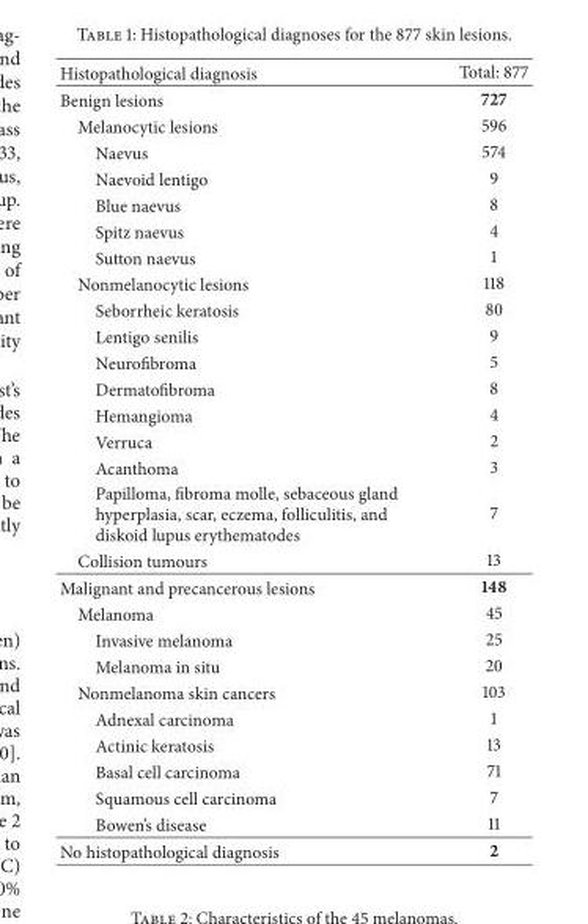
<table><thead><tr><td>Histopathological diagnosis</td><td>Total: 877</td></tr></thead><tbody><tr><td>Benign lesions</td><td>727</td></tr><tr><td>Melanocytic lesions</td><td>596</td></tr><tr><td>Naevus</td><td>574</td></tr><tr><td>Naevoid lentigo</td><td>9</td></tr><tr><td>Blue naevus</td><td>8</td></tr><tr><td>Spitz naevus</td><td>4</td></tr><tr><td>Sutton naevus</td><td>1</td></tr><tr><td>Nonmelanocytic lesions</td><td>118</td></tr><tr><td>Seborrheic keratosis</td><td>80</td></tr><tr><td>Lentigo senilis</td><td>9</td></tr><tr><td>Neurofibroma</td><td>5</td></tr><tr><td>Dermatofibroma</td><td>8</td></tr><tr><td>Hemangioma</td><td>4</td></tr><tr><td>Verruca</td><td>2</td></tr><tr><td>Acanthoma</td><td>3</td></tr><tr><td>Papilloma, fibroma molle, sebaceous gland hyperplasia, scar, eczema, folliculitis, and diskoid lupus erythematodes</td><td>7</td></tr><tr><td>Collision tumours</td><td>13</td></tr><tr><td>Malignant and precancerous lesions</td><td>148</td></tr><tr><td>Melanoma</td><td>45</td></tr><tr><td>Invasive melanoma</td><td>25</td></tr><tr><td>Melanoma in situ</td><td>20</td></tr><tr><td>Nonmelanoma skin cancers</td><td>103</td></tr><tr><td>Adnexal carcinoma</td><td>1</td></tr><tr><td>Actinic keratosis</td><td>13</td></tr><tr><td>Basal cell carcinoma</td><td>71</td></tr><tr><td>Squamous cell carcinoma</td><td>7</td></tr><tr><td>Bowen’s disease</td><td>11</td></tr><tr><td>No histopathological diagnosis</td><td>2</td></tr></tbody></table>